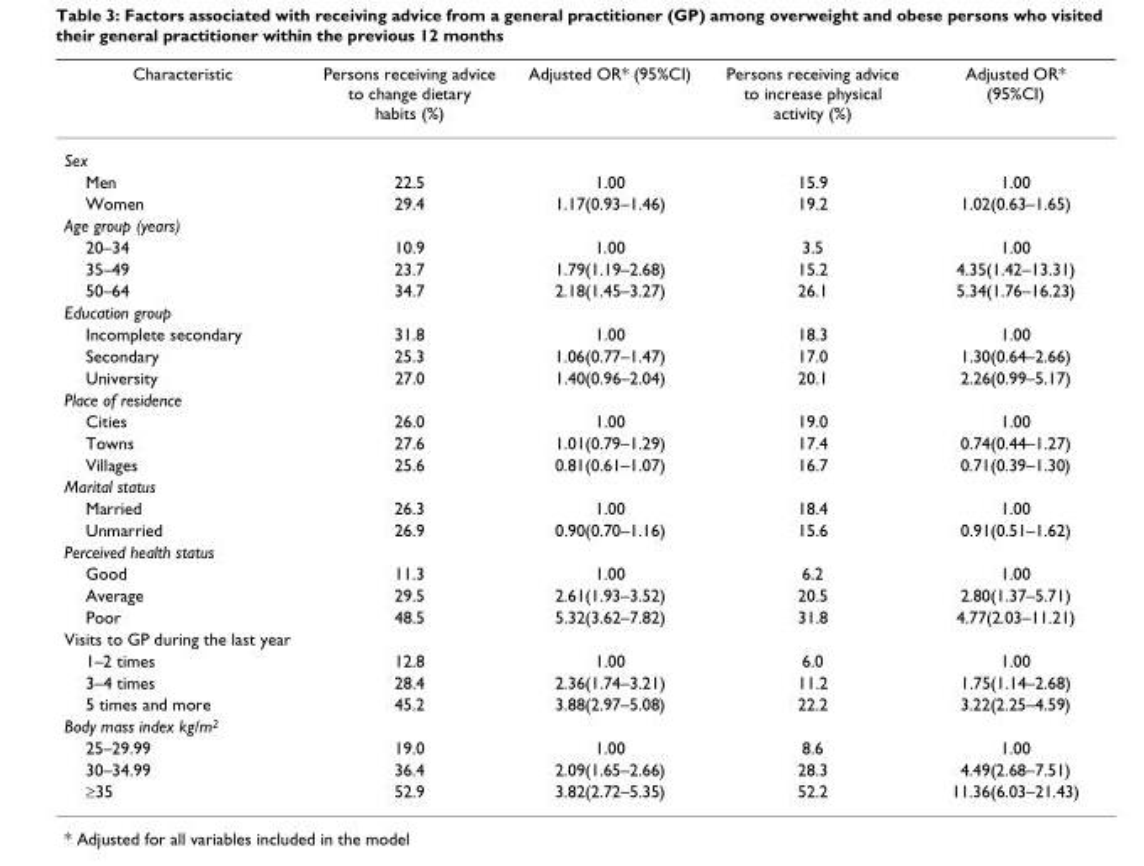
<table><thead><tr><td>Characteristic</td><td>Persons receiving advice to change dietary habits (%)</td><td>Adjusted OR* (95%CI)</td><td>Persons receiving advice to increase physical activity (%)</td><td>Adjusted OR* (95%CI)</td></tr></thead><tbody><tr><td colspan="5">Sex</td></tr><tr><td>Men</td><td>22.5</td><td>1.00</td><td>15.9</td><td>1.00</td></tr><tr><td>Women</td><td>29.4</td><td>1.17(0.93–1.46)</td><td>19.2</td><td>1.02(0.63–1.65)</td></tr><tr><td colspan="5">Age group (years)</td></tr><tr><td>20–34</td><td>10.9</td><td>1.00</td><td>3.5</td><td>1.00</td></tr><tr><td>35–49</td><td>23.7</td><td>1.79(1.19–2.68)</td><td>15.2</td><td>4.35(1.42–13.31)</td></tr><tr><td>50–64</td><td>34.7</td><td>2.18(1.45–3.27)</td><td>26.1</td><td>5.34(1.76–16.23)</td></tr><tr><td colspan="5">Education group</td></tr><tr><td>Incomplete secondary</td><td>31.8</td><td>1.00</td><td>18.3</td><td>1.00</td></tr><tr><td>Secondary</td><td>25.3</td><td>1.06(0.77–1.47)</td><td>17.0</td><td>1.30(0.64–2.66)</td></tr><tr><td>University</td><td>27.0</td><td>1.40(0.96–2.04)</td><td>20.1</td><td>2.26(0.99–5.17)</td></tr><tr><td colspan="5">Place of residence</td></tr><tr><td>Cities</td><td>26.0</td><td>1.00</td><td>19.0</td><td>1.00</td></tr><tr><td>Towns</td><td>27.6</td><td>1.01(0.79–1.29)</td><td>17.4</td><td>0.74(0.44–1.27)</td></tr><tr><td>Villages</td><td>25.6</td><td>0.81(0.61–1.07)</td><td>16.7</td><td>0.71(0.39–1.30)</td></tr><tr><td colspan="5">Marital status</td></tr><tr><td>Married</td><td>26.3</td><td>1.00</td><td>18.4</td><td>1.00</td></tr><tr><td>Unmarried</td><td>26.9</td><td>0.90(0.70–1.16)</td><td>15.6</td><td>0.91(0.51–1.62)</td></tr><tr><td colspan="5">Perceived health status</td></tr><tr><td>Good</td><td>11.3</td><td>1.00</td><td>6.2</td><td>1.00</td></tr><tr><td>Average</td><td>29.5</td><td>2.61(1.93–3.52)</td><td>20.5</td><td>2.80(1.37–5.71)</td></tr><tr><td>Poor</td><td>48.5</td><td>5.32(3.62–7.82)</td><td>31.8</td><td>4.77(2.03–11.21)</td></tr><tr><td colspan="5">Visits to GP during the last year</td></tr><tr><td>1–2 times</td><td>12.8</td><td>1.00</td><td>6.0</td><td>1.00</td></tr><tr><td>3–4 times</td><td>28.4</td><td>2.36(1.74–3.21)</td><td>11.2</td><td>1.75(1.14–2.68)</td></tr><tr><td>5 times and more</td><td>45.2</td><td>3.88(2.97–5.08)</td><td>22.2</td><td>3.22(2.25–4.59)</td></tr><tr><td colspan="5">Body mass index kg/m2</td></tr><tr><td>25–29.99</td><td>19.0</td><td>1.00</td><td>8.6</td><td>1.00</td></tr><tr><td>30–34.99</td><td>36.4</td><td>2.09(1.65–2.66)</td><td>28.3</td><td>4.49(2.68–7.51)</td></tr><tr><td>≥35</td><td>52.9</td><td>3.82(2.72–5.35)</td><td>52.2</td><td>11.36(6.03–21.43)</td></tr></tbody></table>